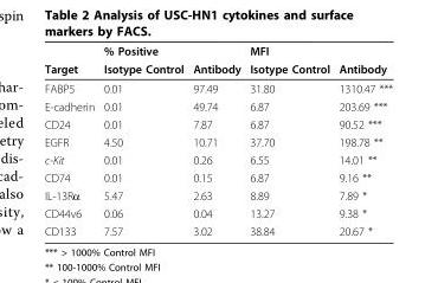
<table><thead><tr><td rowspan="2">Target</td><td rowspan="2">% Positive Isotype Control</td><td rowspan="2">Antibody</td><td rowspan="2">MFI Isotype Control</td><td rowspan="2">Antibody</td></tr><tr></tr></thead><tbody><tr><td>FABP5</td><td>0.01</td><td>97.49</td><td>31.80</td><td>1310.47 ***</td></tr><tr><td>E-cadherin</td><td>0.01</td><td>49.74</td><td>6.87</td><td>203.69 ***</td></tr><tr><td>CD24</td><td>0.01</td><td>7.87</td><td>6.87</td><td>90.52 ***</td></tr><tr><td>EGFR</td><td>4.50</td><td>10.71</td><td>37.70</td><td>198.78 **</td></tr><tr><td>c-Kit</td><td>0.01</td><td>0.26</td><td>6.55</td><td>14.01 **</td></tr><tr><td>CD74</td><td>0.01</td><td>0.15</td><td>6.87</td><td>9.16 **</td></tr><tr><td>IL-13Rα</td><td>5.47</td><td>2.63</td><td>8.89</td><td>7.89 *</td></tr><tr><td>CD44v6</td><td>0.06</td><td>0.04</td><td>13.27</td><td>9.38 *</td></tr><tr><td>CD133</td><td>7.57</td><td>3.02</td><td>38.84</td><td>20.67 *</td></tr></tbody></table>